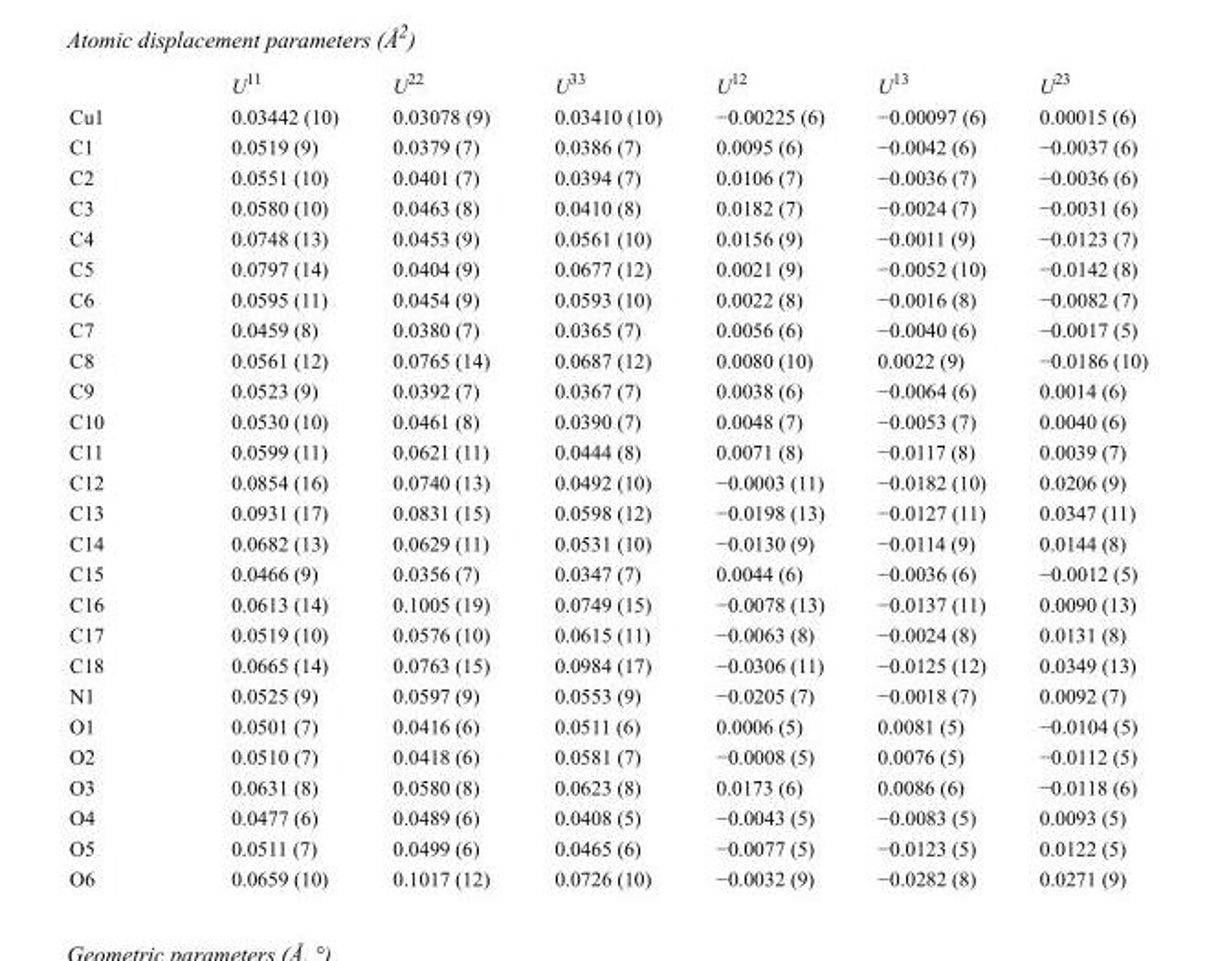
<table><thead><tr><td></td><td>U<sup>11</sup></td><td>U<sup>22</sup></td><td>U<sup>33</sup></td><td>U<sup>12</sup></td><td>U<sup>13</sup></td><td>U<sup>23</sup></td></tr></thead><tbody><tr><td>Cu1</td><td>0.03442 (10)</td><td>0.03078 (9)</td><td>0.03410 (10)</td><td>−0.00225 (6)</td><td>−0.00097 (6)</td><td>0.00015 (6)</td></tr><tr><td>C1</td><td>0.0519 (9)</td><td>0.0379 (7)</td><td>0.0386 (7)</td><td>0.0095 (6)</td><td>−0.0042 (6)</td><td>−0.0037 (6)</td></tr><tr><td>C2</td><td>0.0551 (10)</td><td>0.0401 (7)</td><td>0.0394 (7)</td><td>0.0106 (7)</td><td>−0.0036 (7)</td><td>−0.0036 (6)</td></tr><tr><td>C3</td><td>0.0580 (10)</td><td>0.0463 (8)</td><td>0.0410 (8)</td><td>0.0182 (7)</td><td>−0.0024 (7)</td><td>−0.0031 (6)</td></tr><tr><td>C4</td><td>0.0748 (13)</td><td>0.0453 (9)</td><td>0.0561 (10)</td><td>0.0156 (9)</td><td>−0.0011 (9)</td><td>−0.0123 (7)</td></tr><tr><td>C5</td><td>0.0797 (14)</td><td>0.0404 (9)</td><td>0.0677 (12)</td><td>0.0021 (9)</td><td>−0.0052 (10)</td><td>−0.0142 (8)</td></tr><tr><td>C6</td><td>0.0595 (11)</td><td>0.0454 (9)</td><td>0.0593 (10)</td><td>0.0022 (8)</td><td>−0.0016 (8)</td><td>−0.0082 (7)</td></tr><tr><td>C7</td><td>0.0459 (8)</td><td>0.0380 (7)</td><td>0.0365 (7)</td><td>0.0056 (6)</td><td>−0.0040 (6)</td><td>−0.0017 (5)</td></tr><tr><td>C8</td><td>0.0561 (12)</td><td>0.0765 (14)</td><td>0.0687 (12)</td><td>0.0080 (10)</td><td>0.0022 (9)</td><td>−0.0186 (10)</td></tr><tr><td>C9</td><td>0.0523 (9)</td><td>0.0392 (7)</td><td>0.0367 (7)</td><td>0.0038 (6)</td><td>−0.0064 (6)</td><td>0.0014 (6)</td></tr><tr><td>C10</td><td>0.0530 (10)</td><td>0.0461 (8)</td><td>0.0390 (7)</td><td>0.0048 (7)</td><td>−0.0053 (7)</td><td>0.0040 (6)</td></tr><tr><td>C11</td><td>0.0599 (11)</td><td>0.0621 (11)</td><td>0.0444 (8)</td><td>0.0071 (8)</td><td>−0.0117 (8)</td><td>0.0039 (7)</td></tr><tr><td>C12</td><td>0.0854 (16)</td><td>0.0740 (13)</td><td>0.0492 (10)</td><td>−0.0003 (11)</td><td>−0.0182 (10)</td><td>0.0206 (9)</td></tr><tr><td>C13</td><td>0.0931 (17)</td><td>0.0831 (15)</td><td>0.0598 (12)</td><td>−0.0198 (13)</td><td>−0.0127 (11)</td><td>0.0347 (11)</td></tr><tr><td>C14</td><td>0.0682 (13)</td><td>0.0629 (11)</td><td>0.0531 (10)</td><td>−0.0130 (9)</td><td>−0.0114 (9)</td><td>0.0144 (8)</td></tr><tr><td>C15</td><td>0.0466 (9)</td><td>0.0356 (7)</td><td>0.0347 (7)</td><td>0.0044 (6)</td><td>−0.0036 (6)</td><td>−0.0012 (5)</td></tr><tr><td>C16</td><td>0.0613 (14)</td><td>0.1005 (19)</td><td>0.0749 (15)</td><td>−0.0078 (13)</td><td>−0.0137 (11)</td><td>0.0090 (13)</td></tr><tr><td>C17</td><td>0.0519 (10)</td><td>0.0576 (10)</td><td>0.0615 (11)</td><td>−0.0063 (8)</td><td>−0.0024 (8)</td><td>0.0131 (8)</td></tr><tr><td>C18</td><td>0.0665 (14)</td><td>0.0763 (15)</td><td>0.0984 (17)</td><td>−0.0306 (11)</td><td>−0.0125 (12)</td><td>0.0349 (13)</td></tr><tr><td>N1</td><td>0.0525 (9)</td><td>0.0597 (9)</td><td>0.0553 (9)</td><td>−0.0205 (7)</td><td>−0.0018 (7)</td><td>0.0092 (7)</td></tr><tr><td>O1</td><td>0.0501 (7)</td><td>0.0416 (6)</td><td>0.0511 (6)</td><td>0.0006 (5)</td><td>0.0081 (5)</td><td>−0.0104 (5)</td></tr><tr><td>O2</td><td>0.0510 (7)</td><td>0.0418 (6)</td><td>0.0581 (7)</td><td>−0.0008 (5)</td><td>0.0076 (5)</td><td>−0.0112 (5)</td></tr><tr><td>O3</td><td>0.0631 (8)</td><td>0.0580 (8)</td><td>0.0623 (8)</td><td>0.0173 (6)</td><td>0.0086 (6)</td><td>−0.0118 (6)</td></tr><tr><td>O4</td><td>0.0477 (6)</td><td>0.0489 (6)</td><td>0.0408 (5)</td><td>−0.0043 (5)</td><td>−0.0083 (5)</td><td>0.0093 (5)</td></tr><tr><td>O5</td><td>0.0511 (7)</td><td>0.0499 (6)</td><td>0.0465 (6)</td><td>−0.0077 (5)</td><td>−0.0123 (5)</td><td>0.0122 (5)</td></tr><tr><td>O6</td><td>0.0659 (10)</td><td>0.1017 (12)</td><td>0.0726 (10)</td><td>−0.0032 (9)</td><td>−0.0282 (8)</td><td>0.0271 (9)</td></tr></tbody></table>